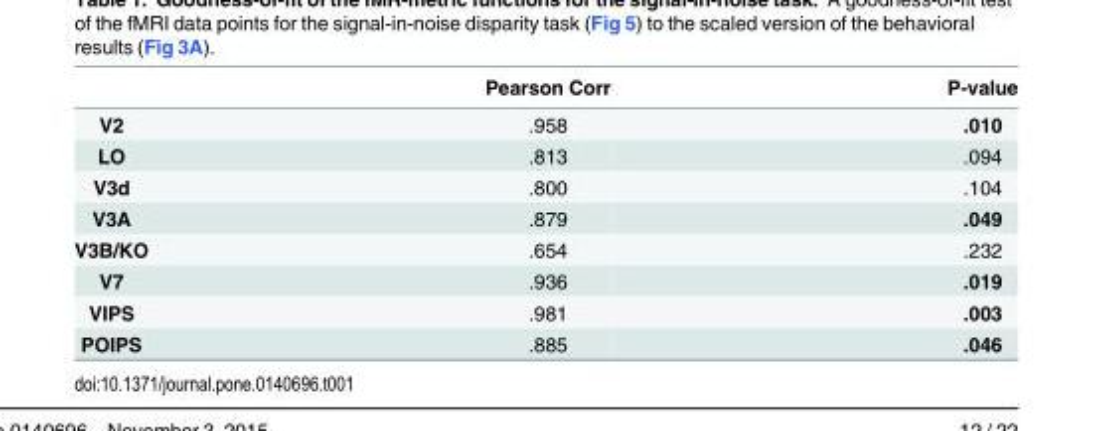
<table><thead><tr><td></td><td>Pearson Corr</td><td>P-value</td></tr></thead><tbody><tr><td>V2</td><td>.958</td><td>.010</td></tr><tr><td>LO</td><td>.813</td><td>.094</td></tr><tr><td>V3d</td><td>.800</td><td>.104</td></tr><tr><td>V3A</td><td>.879</td><td>.049</td></tr><tr><td>V3B/KO</td><td>.654</td><td>.232</td></tr><tr><td>V7</td><td>.936</td><td>.019</td></tr><tr><td>VIPS</td><td>.981</td><td>.003</td></tr><tr><td>POIPS</td><td>.885</td><td>.046</td></tr></tbody></table>